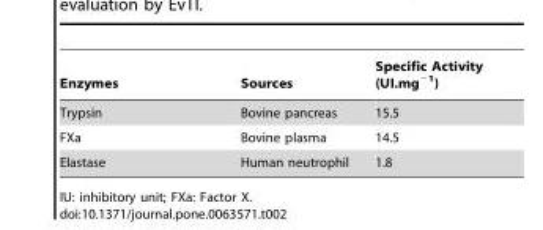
<table><thead><tr><td>Enzymes</td><td>Sources</td><td>Specific Activity (UI.mg<sup>−1</sup>)</td></tr></thead><tbody><tr><td>Trypsin</td><td>Bovine pancreas</td><td>15.5</td></tr><tr><td>FXa</td><td>Bovine plasma</td><td>14.5</td></tr><tr><td>Elastase</td><td>Human neutrophil</td><td>1.8</td></tr></tbody></table>